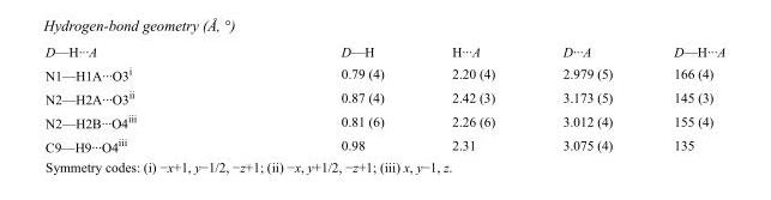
<table><tbody><tr><td>D—H···A</td><td>D—H</td><td>H···A</td><td>D···A</td><td>D—H···A</td></tr><tr><td>N1—H1A···O3<sup>i</sup></td><td>0.79 (4)</td><td>2.20 (4)</td><td>2.979 (5)</td><td>166 (4)</td></tr><tr><td>N2—H2A···O3<sup>ii</sup></td><td>0.87 (4)</td><td>2.42 (3)</td><td>3.173 (5)</td><td>145 (3)</td></tr><tr><td>N2—H2B···O4<sup>iii</sup></td><td>0.81 (6)</td><td>2.26 (6)</td><td>3.012 (4)</td><td>155 (4)</td></tr><tr><td>C9—H9···O4<sup>iii</sup></td><td>0.98</td><td>2.31</td><td>3.075 (4)</td><td>135</td></tr></tbody></table>